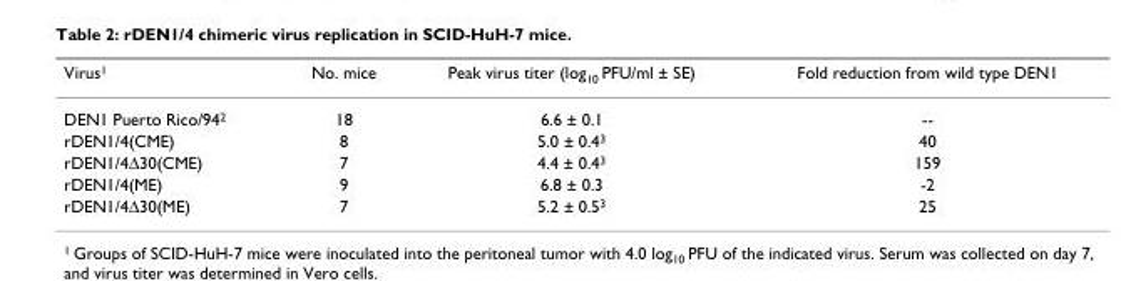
<table><thead><tr><td>Virus<sup>1</sup></td><td>No. mice</td><td>Peak virus titer (log<sub>10</sub> PFU/ml ± SE)</td><td>Fold reduction from wild type DEN1</td></tr></thead><tbody><tr><td>DEN1 Puerto Rico/94<sup>2</sup></td><td>18</td><td>6.6 ± 0.1</td><td>--</td></tr><tr><td>rDEN1/4(CME)</td><td>8</td><td>5.0 ± 0.4<sup>3</sup></td><td>40</td></tr><tr><td>rDEN1/4Δ30(CME)</td><td>7</td><td>4.4 ± 0.4<sup>3</sup></td><td>159</td></tr><tr><td>rDEN1/4(ME)</td><td>9</td><td>6.8 ± 0.3</td><td>-2</td></tr><tr><td>rDEN1/4Δ30(ME)</td><td>7</td><td>5.2 ± 0.5<sup>3</sup></td><td>25</td></tr></tbody></table>